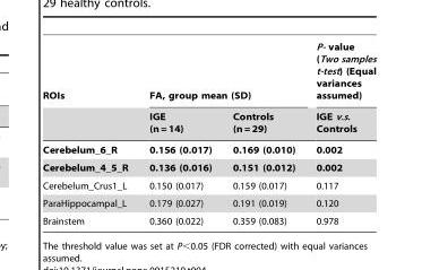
<table><thead><tr><td rowspan="2">ROIs</td><td colspan="2">FA, group mean (SD)</td><td rowspan="2">P- value (Two samples t-test) (Equal variances assumed) IGE v.s. Controls</td></tr><tr><td>IGE (n = 14)</td><td>Controls (n = 29)</td></tr></thead><tbody><tr><td>Cerebelum_6_R</td><td>0.156 (0.017)</td><td>0.169 (0.010)</td><td>0.002</td></tr><tr><td>Cerebelum_4_5_R</td><td>0.136 (0.016)</td><td>0.151 (0.012)</td><td>0.002</td></tr><tr><td>Cerebelum_Crus1_L</td><td>0.150 (0.017)</td><td>0.159 (0.017)</td><td>0.117</td></tr><tr><td>ParaHippocampal_L</td><td>0.179 (0.027)</td><td>0.191 (0.019)</td><td>0.120</td></tr><tr><td>Brainstem</td><td>0.360 (0.022)</td><td>0.359 (0.083)</td><td>0.978</td></tr></tbody></table>